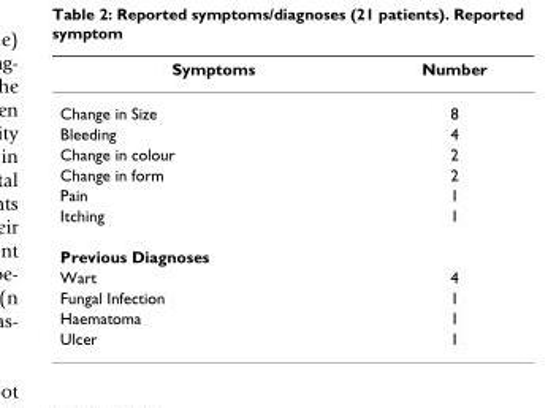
<table><thead><tr><td>Symptoms</td><td>Number</td></tr></thead><tbody><tr><td>Change in Size</td><td>8</td></tr><tr><td>Bleeding</td><td>4</td></tr><tr><td>Change in colour</td><td>2</td></tr><tr><td>Change in form</td><td>2</td></tr><tr><td>Pain</td><td>1</td></tr><tr><td>Itching</td><td>1</td></tr><tr><td colspan="2">Previous Diagnoses</td></tr><tr><td>Wart</td><td>4</td></tr><tr><td>Fungal Infection</td><td>1</td></tr><tr><td>Haematoma</td><td>1</td></tr><tr><td>Ulcer</td><td>1</td></tr></tbody></table>